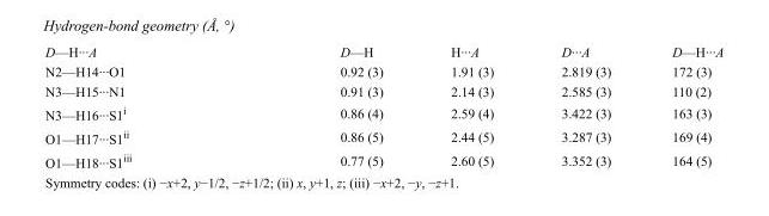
<table><tbody><tr><td>D—H···A</td><td>D—H</td><td>H···A</td><td>D···A</td><td>D—H···A</td></tr><tr><td>N2—H14···O1</td><td>0.92 (3)</td><td>1.91 (3)</td><td>2.819 (3)</td><td>172 (3)</td></tr><tr><td>N3—H15···N1</td><td>0.91 (3)</td><td>2.14 (3)</td><td>2.585 (3)</td><td>110 (2)</td></tr><tr><td>N3—H16···S1<sup>i</sup></td><td>0.86 (4)</td><td>2.59 (4)</td><td>3.422 (3)</td><td>163 (3)</td></tr><tr><td>O1—H17···S1<sup>ii</sup></td><td>0.86 (5)</td><td>2.44 (5)</td><td>3.287 (3)</td><td>169 (4)</td></tr><tr><td>O1—H18···S1<sup>iii</sup></td><td>0.77 (5)</td><td>2.60 (5)</td><td>3.352 (3)</td><td>164 (5)</td></tr></tbody></table>